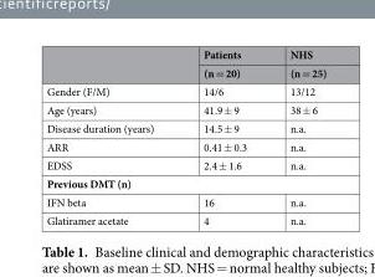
<table><thead><tr><td rowspan="2"></td><td rowspan="2">Patients (n = 20)</td><td rowspan="2">NHS (n = 25)</td></tr><tr></tr></thead><tbody><tr><td>Gender (F/M)</td><td>14/6</td><td>13/12</td></tr><tr><td>Age (years)</td><td>41.9 ± 9</td><td>38 ± 6</td></tr><tr><td>Disease duration (years)</td><td>14.5 ± 9</td><td>n.a.</td></tr><tr><td>ARR</td><td>0.41 ± 0.3</td><td>n.a.</td></tr><tr><td>EDSS</td><td>2.4 ± 1.6</td><td>n.a.</td></tr><tr><td colspan="3">Previous DMT (n)</td></tr><tr><td>IFN beta</td><td>16</td><td>n.a.</td></tr><tr><td>Glatiramer acetate</td><td>4</td><td>n.a.</td></tr></tbody></table>